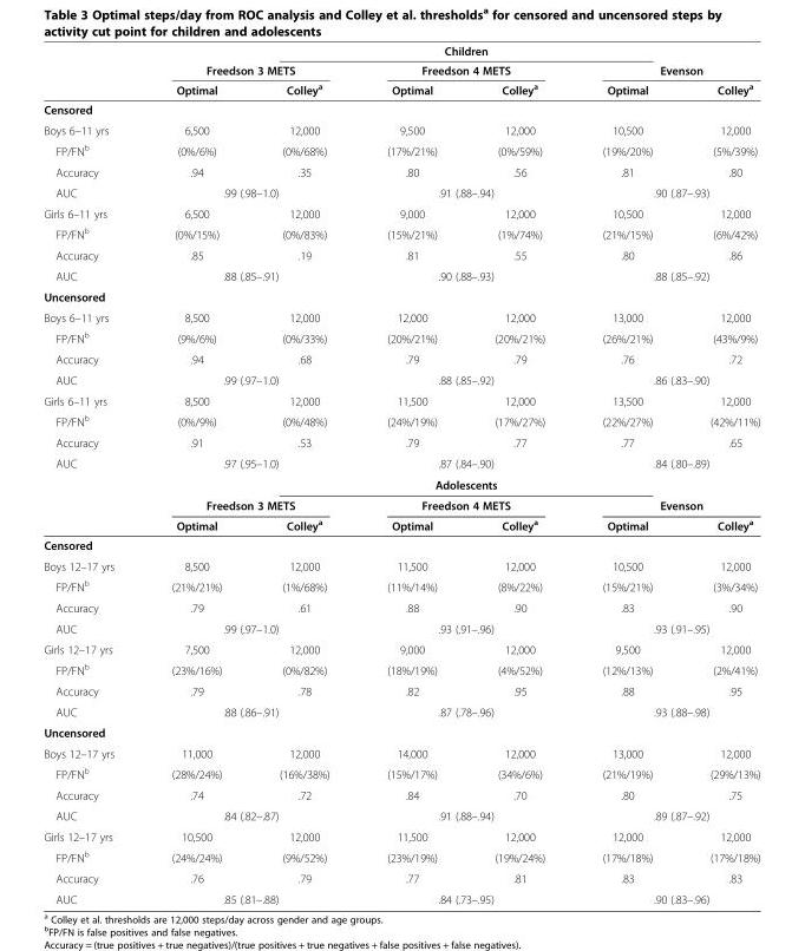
<table><thead><tr><td rowspan="3"></td><td></td><td colspan="4">Children</td><td></td></tr><tr><td colspan="2">Freedson 3 METS</td><td colspan="2">Freedson 4 METS</td><td colspan="2">Evenson</td></tr><tr><td>Optimal</td><td>Colley<sup>a</sup></td><td>Optimal</td><td>Colley<sup>a</sup></td><td>Optimal</td><td>Colley<sup>a</sup></td></tr></thead><tbody><tr><td colspan="7">Censored</td></tr><tr><td>Boys 6–11 yrs</td><td>6,500</td><td>12,000</td><td>9,500</td><td>12,000</td><td>10,500</td><td>12,000</td></tr><tr><td>FP/FN<sup>b</sup></td><td>(0%/6%)</td><td>(0%/68%)</td><td>(17%/21%)</td><td>(0%/59%)</td><td>(19%/20%)</td><td>(5%/39%)</td></tr><tr><td>Accuracy</td><td>.94</td><td>.35</td><td>.80</td><td>.56</td><td>.81</td><td>.80</td></tr><tr><td>AUC</td><td colspan="2">.99 (.98–1.0)</td><td colspan="2">.91 (.88–.94)</td><td colspan="2">.90 (.87–.93)</td></tr><tr><td>Girls 6–11 yrs</td><td>6,500</td><td>12,000</td><td>9,000</td><td>12,000</td><td>10,500</td><td>12,000</td></tr><tr><td>FP/FN<sup>b</sup></td><td>(0%/15%)</td><td>(0%/83%)</td><td>(15%/21%)</td><td>(1%/74%)</td><td>(21%/15%)</td><td>(6%/42%)</td></tr><tr><td>Accuracy</td><td>.85</td><td>.19</td><td>.81</td><td>.55</td><td>.80</td><td>.86</td></tr><tr><td>AUC</td><td colspan="2">.88 (.85–.91)</td><td colspan="2">.90 (.88–.93)</td><td colspan="2">.88 (.85–.92)</td></tr><tr><td colspan="7">Uncensored</td></tr><tr><td>Boys 6–11 yrs</td><td>8,500</td><td>12,000</td><td>12,000</td><td>12,000</td><td>13,000</td><td>12,000</td></tr><tr><td>FP/FN<sup>b</sup></td><td>(9%/6%)</td><td>(0%/33%)</td><td>(20%/21%)</td><td>(20%/21%)</td><td>(26%/21%)</td><td>(43%/9%)</td></tr><tr><td>Accuracy</td><td>.94</td><td>.68</td><td>.79</td><td>.79</td><td>.76</td><td>.72</td></tr><tr><td>AUC</td><td colspan="2">.99 (.97–1.0)</td><td colspan="2">.88 (.85–.92)</td><td colspan="2">.86 (.83–.90)</td></tr><tr><td>Girls 6–11 yrs</td><td>8,500</td><td>12,000</td><td>11,500</td><td>12,000</td><td>13,500</td><td>12,000</td></tr><tr><td>FP/FN<sup>b</sup></td><td>(0%/9%)</td><td>(0%/48%)</td><td>(24%/19%)</td><td>(17%/27%)</td><td>(22%/27%)</td><td>(42%/11%)</td></tr><tr><td>Accuracy</td><td>.91</td><td>.53</td><td>.79</td><td>.77</td><td>.77</td><td>.65</td></tr><tr><td rowspan="4">AUC</td><td colspan="2">.97 (.95–1.0)</td><td colspan="2">.87 (.84–.90)</td><td colspan="2">.84 (.80–.89)</td></tr><tr><td></td><td colspan="4">Adolescents</td><td></td></tr><tr><td colspan="2">Freedson 3 METS</td><td colspan="2">Freedson 4 METS</td><td colspan="2">Evenson</td></tr><tr><td>Optimal</td><td>Colley<sup>a</sup></td><td>Optimal</td><td>Colley<sup>a</sup></td><td>Optimal</td><td>Colley<sup>a</sup></td></tr><tr><td colspan="7">Censored</td></tr><tr><td>Boys 12–17 yrs</td><td>8,500</td><td>12,000</td><td>11,500</td><td>12,000</td><td>10,500</td><td>12,000</td></tr><tr><td>FP/FN<sup>b</sup></td><td>(21%/21%)</td><td>(1%/68%)</td><td>(11%/14%)</td><td>(8%/22%)</td><td>(15%/21%)</td><td>(3%/34%)</td></tr><tr><td>Accuracy</td><td>.79</td><td>.61</td><td>.88</td><td>.90</td><td>.83</td><td>.90</td></tr><tr><td>AUC</td><td colspan="2">.99 (.97–1.0)</td><td colspan="2">.93 (.91–.96)</td><td colspan="2">.93 (.91–.95)</td></tr><tr><td>Girls 12–17 yrs</td><td>7,500</td><td>12,000</td><td>9,000</td><td>12,000</td><td>9,500</td><td>12,000</td></tr><tr><td>FP/FN<sup>b</sup></td><td>(23%/16%)</td><td>(0%/82%)</td><td>(18%/19%)</td><td>(4%/52%)</td><td>(12%/13%)</td><td>(2%/41%)</td></tr><tr><td>Accuracy</td><td>.79</td><td>.78</td><td>.82</td><td>.95</td><td>.88</td><td>.95</td></tr><tr><td>AUC</td><td colspan="2">.88 (.86–.91)</td><td colspan="2">.87 (.78–.96)</td><td colspan="2">.93 (.88–.98)</td></tr><tr><td colspan="7">Uncensored</td></tr><tr><td>Boys 12–17 yrs</td><td>11,000</td><td>12,000</td><td>14,000</td><td>12,000</td><td>13,000</td><td>12,000</td></tr><tr><td>FP/FN<sup>b</sup></td><td>(28%/24%)</td><td>(16%/38%)</td><td>(15%/17%)</td><td>(34%/6%)</td><td>(21%/19%)</td><td>(29%/13%)</td></tr><tr><td>Accuracy</td><td>.74</td><td>.72</td><td>.84</td><td>.70</td><td>.80</td><td>.75</td></tr><tr><td>AUC</td><td colspan="2">.84 (.82–.87)</td><td colspan="2">.91 (.88–.94)</td><td colspan="2">.89 (.87–.92)</td></tr><tr><td>Girls 12–17 yrs</td><td>10,500</td><td>12,000</td><td>11,500</td><td>12,000</td><td>12,000</td><td>12,000</td></tr><tr><td>FP/FN<sup>b</sup></td><td>(24%/24%)</td><td>(9%/52%)</td><td>(23%/19%)</td><td>(19%/24%)</td><td>(17%/18%)</td><td>(17%/18%)</td></tr><tr><td>Accuracy</td><td>.76</td><td>.79</td><td>.77</td><td>.81</td><td>.83</td><td>.83</td></tr><tr><td>AUC</td><td colspan="2">.85 (.81–.88)</td><td colspan="2">.84 (.73–.95)</td><td colspan="2">.90 (.83–.96)</td></tr></tbody></table>